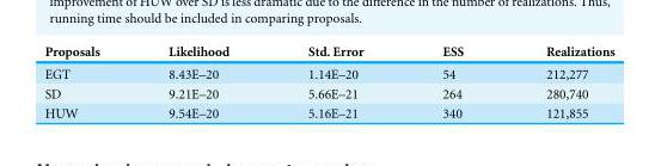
<table><thead><tr><td>Proposals</td><td>Likelihood</td><td>Std. Error</td><td>ESS</td><td>Realizations</td></tr></thead><tbody><tr><td>EGT</td><td>8.43E–20</td><td>1.14E–20</td><td>54</td><td>212,277</td></tr><tr><td>SD</td><td>9.21E–20</td><td>5.66E–21</td><td>264</td><td>280,740</td></tr><tr><td>HUW</td><td>9.54E–20</td><td>5.16E–21</td><td>340</td><td>121,855</td></tr></tbody></table>